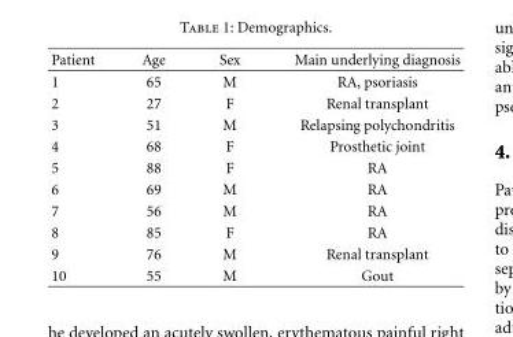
<table><thead><tr><td>Patient</td><td>Age</td><td>Sex</td><td>Main underlying diagnosis</td></tr></thead><tbody><tr><td>1</td><td>65</td><td>M</td><td>RA, psoriasis</td></tr><tr><td>2</td><td>27</td><td>F</td><td>Renal transplant</td></tr><tr><td>3</td><td>51</td><td>M</td><td>Relapsing polychondritis</td></tr><tr><td>4</td><td>68</td><td>F</td><td>Prosthetic joint</td></tr><tr><td>5</td><td>88</td><td>F</td><td>RA</td></tr><tr><td>6</td><td>69</td><td>M</td><td>RA</td></tr><tr><td>7</td><td>56</td><td>M</td><td>RA</td></tr><tr><td>8</td><td>85</td><td>F</td><td>RA</td></tr><tr><td>9</td><td>76</td><td>M</td><td>Renal transplant</td></tr><tr><td>10</td><td>55</td><td>M</td><td>Gout</td></tr></tbody></table>